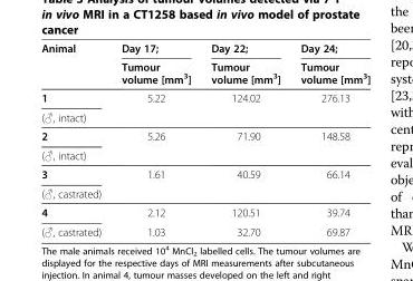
<table><thead><tr><td rowspan="2">Animal</td><td rowspan="2">Day 17; Tumour volume [mm<sup>3</sup>]</td><td rowspan="2">Day 22; Tumour volume [mm<sup>3</sup>]</td><td rowspan="2">Day 24; Tumour volume [mm<sup>3</sup>]</td></tr><tr></tr></thead><tbody><tr><td>1</td><td>5.22</td><td>124.02</td><td>276.13</td></tr><tr><td colspan="4">(♂, intact)</td></tr><tr><td>2</td><td>5.26</td><td>71.90</td><td>148.58</td></tr><tr><td colspan="4">(♂, intact)</td></tr><tr><td>3</td><td>1.61</td><td>40.59</td><td>66.14</td></tr><tr><td colspan="4">(♂, castrated)</td></tr><tr><td>4</td><td>2.12</td><td>120.51</td><td>39.74</td></tr><tr><td>(♂, castrated)</td><td>1.03</td><td>32.70</td><td>69.87</td></tr></tbody></table>